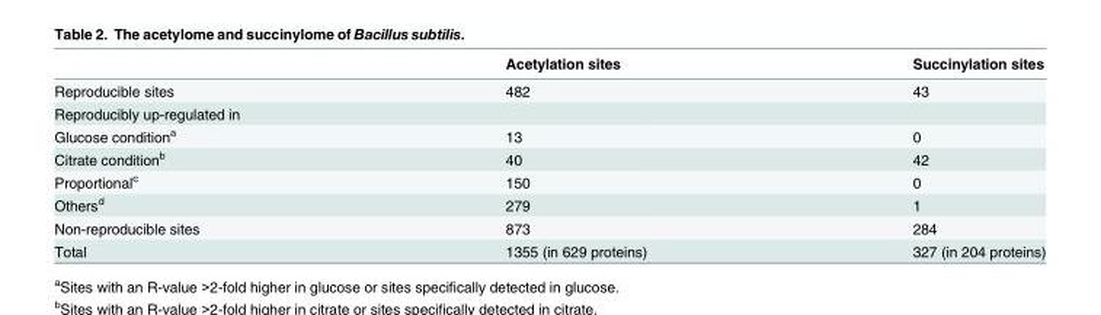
<table><thead><tr><td></td><td>Acetylation sites</td><td>Succinylation sites</td></tr></thead><tbody><tr><td>Reproducible sites</td><td>482</td><td>43</td></tr><tr><td colspan="3">Reproducibly up-regulated in</td></tr><tr><td>Glucose condition<sup>a</sup></td><td>13</td><td>0</td></tr><tr><td>Citrate condition<sup>b</sup></td><td>40</td><td>42</td></tr><tr><td>Proportional<sup>c</sup></td><td>150</td><td>0</td></tr><tr><td>Others<sup>d</sup></td><td>279</td><td>1</td></tr><tr><td>Non-reproducible sites</td><td>873</td><td>284</td></tr><tr><td>Total</td><td>1355 (in 629 proteins)</td><td>327 (in 204 proteins)</td></tr></tbody></table>